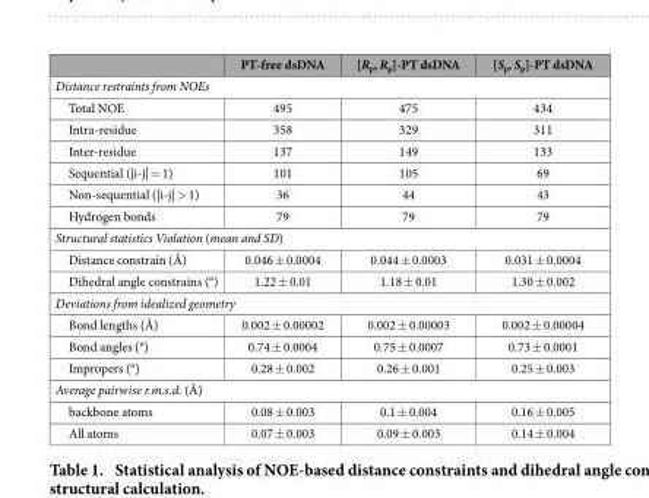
<table><thead><tr><td></td><td>PT-free dsDNA</td><td>[R<sub>p</sub>, R<sub>p</sub>]-PT dsDNA</td><td>[S<sub>p</sub>, S<sub>p</sub>]-PT dsDNA</td></tr></thead><tbody><tr><td colspan="4">Distance restraints from NOEs</td></tr><tr><td>Total NOE</td><td>495</td><td>475</td><td>434</td></tr><tr><td>Intra-residue</td><td>358</td><td>329</td><td>311</td></tr><tr><td>Inter-residue</td><td>137</td><td>149</td><td>133</td></tr><tr><td>Sequential (|i-j| = 1)</td><td>101</td><td>105</td><td>69</td></tr><tr><td>Non-sequential (|i-j| &gt; 1)</td><td>36</td><td>44</td><td>43</td></tr><tr><td>Hydrogen bonds</td><td>79</td><td>79</td><td>79</td></tr><tr><td colspan="4">Structural statistics Violation (mean and SD)</td></tr><tr><td>Distance constrain (Å)</td><td>0.046 ± 0.0004</td><td>0.044 ± 0.0003</td><td>0.031 ± 0.0004</td></tr><tr><td>Dihedral angle constrains (°)</td><td>1.22 ± 0.01</td><td>1.18 ± 0.01</td><td>1.30 ± 0.002</td></tr><tr><td colspan="4">Deviations from idealized geometry</td></tr><tr><td>Bond lengths (Å)</td><td>0.002 ± 0.00002</td><td>0.002 ± 0.00003</td><td>0.002 ± 0.00004</td></tr><tr><td>Bond angles (°)</td><td>0.74 ± 0.0004</td><td>0.75 ± 0.0007</td><td>0.73 ± 0.0001</td></tr><tr><td>Impropers (°)</td><td>0.28 ± 0.002</td><td>0.26 ± 0.001</td><td>0.25 ± 0.003</td></tr><tr><td colspan="4">Average pairwise r.m.s.d. (Å)</td></tr><tr><td>backbone atoms</td><td>0.08 ± 0.003</td><td>0.1 ± 0.004</td><td>0.16 ± 0.005</td></tr><tr><td>All atoms</td><td>0.07 ± 0.003</td><td>0.09 ± 0.003</td><td>0.14 ± 0.004</td></tr></tbody></table>